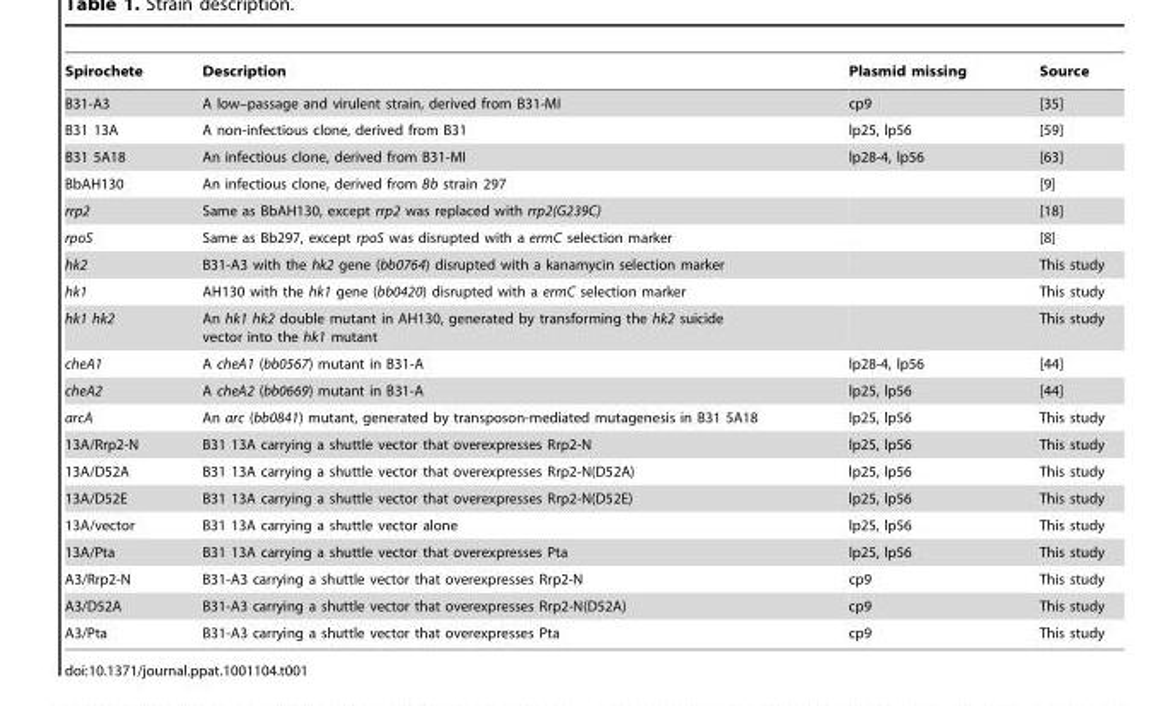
<table><thead><tr><td>Spirochete</td><td>Description</td><td>Plasmid missing</td><td>Source</td></tr></thead><tbody><tr><td>B31-A3</td><td>A low–passage and virulent strain, derived from B31-MI</td><td>cp9</td><td>[35]</td></tr><tr><td>B31 13A</td><td>A non-infectious clone, derived from B31</td><td>lp25, lp56</td><td>[59]</td></tr><tr><td>B31 5A18</td><td>An infectious clone, derived from B31-MI</td><td>lp28-4, lp56</td><td>[63]</td></tr><tr><td>BbAH130</td><td>An infectious clone, derived from Bb strain 297</td><td></td><td>[9]</td></tr><tr><td>rrp2</td><td>Same as BbAH130, except rrp2 was replaced with rrp2(G239C)</td><td></td><td>[18]</td></tr><tr><td>rpoS</td><td>Same as Bb297, except rpoS was disrupted with a ermC selection marker</td><td></td><td>[8]</td></tr><tr><td>hk2</td><td>B31-A3 with the hk2 gene (bb0764) disrupted with a kanamycin selection marker</td><td></td><td>This study</td></tr><tr><td>hk1</td><td>AH130 with the hk1 gene (bb0420) disrupted with a ermC selection marker</td><td></td><td>This study</td></tr><tr><td>hk1 hk2</td><td>An hk1 hk2 double mutant in AH130, generated by transforming the hk2 suicide vector into the hk1 mutant</td><td></td><td>This study</td></tr><tr><td>cheA1</td><td>A cheA1 (bb0567) mutant in B31-A</td><td>lp28-4, lp56</td><td>[44]</td></tr><tr><td>cheA2</td><td>A cheA2 (bb0669) mutant in B31-A</td><td>lp25, lp56</td><td>[44]</td></tr><tr><td>arcA</td><td>An arc (bb0841) mutant, generated by transposon-mediated mutagenesis in B31 5A18</td><td>lp25, lp56</td><td>This study</td></tr><tr><td>13A/Rrp2-N</td><td>B31 13A carrying a shuttle vector that overexpresses Rrp2-N</td><td>lp25, lp56</td><td>This study</td></tr><tr><td>13A/D52A</td><td>B31 13A carrying a shuttle vector that overexpresses Rrp2-N(D52A)</td><td>lp25, lp56</td><td>This study</td></tr><tr><td>13A/D52E</td><td>B31 13A carrying a shuttle vector that overexpresses Rrp2-N(D52E)</td><td>lp25, lp56</td><td>This study</td></tr><tr><td>13A/vector</td><td>B31 13A carrying a shuttle vector alone</td><td>lp25, lp56</td><td>This study</td></tr><tr><td>13A/Pta</td><td>B31 13A carrying a shuttle vector that overexpresses Pta</td><td>lp25, lp56</td><td>This study</td></tr><tr><td>A3/Rrp2-N</td><td>B31-A3 carrying a shuttle vector that overexpresses Rrp2-N</td><td>cp9</td><td>This study</td></tr><tr><td>A3/D52A</td><td>B31-A3 carrying a shuttle vector that overexpresses Rrp2-N(D52A)</td><td>cp9</td><td>This study</td></tr><tr><td>A3/Pta</td><td>B31-A3 carrying a shuttle vector that overexpresses Pta</td><td>cp9</td><td>This study</td></tr></tbody></table>